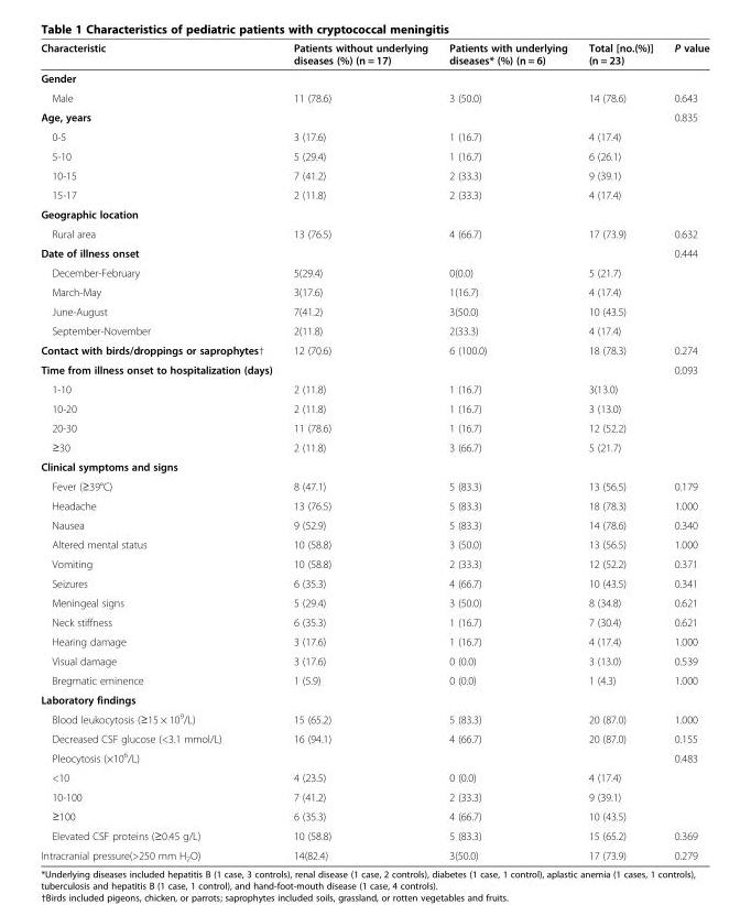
<table><thead><tr><td>Characteristic</td><td>Patients without underlying diseases (%) (n = 17)</td><td>Patients with underlying diseases* (%) (n = 6)</td><td>Total [no.(%)] (n = 23)</td><td>P value</td></tr></thead><tbody><tr><td colspan="5">Gender</td></tr><tr><td>Male</td><td>11 (78.6)</td><td>3 (50.0)</td><td>14 (78.6)</td><td>0.643</td></tr><tr><td>Age, years</td><td></td><td></td><td></td><td>0.835</td></tr><tr><td>0-5</td><td>3 (17.6)</td><td>1 (16.7)</td><td>4 (17.4)</td><td></td></tr><tr><td>5-10</td><td>5 (29.4)</td><td>1 (16.7)</td><td>6 (26.1)</td><td></td></tr><tr><td>10-15</td><td>7 (41.2)</td><td>2 (33.3)</td><td>9 (39.1)</td><td></td></tr><tr><td>15-17</td><td>2 (11.8)</td><td>2 (33.3)</td><td>4 (17.4)</td><td></td></tr><tr><td colspan="5">Geographic location</td></tr><tr><td>Rural area</td><td>13 (76.5)</td><td>4 (66.7)</td><td>17 (73.9)</td><td>0.632</td></tr><tr><td>Date of illness onset</td><td></td><td></td><td></td><td>0.444</td></tr><tr><td>December-February</td><td>5(29.4)</td><td>0(0.0)</td><td>5 (21.7)</td><td></td></tr><tr><td>March-May</td><td>3(17.6)</td><td>1(16.7)</td><td>4 (17.4)</td><td></td></tr><tr><td>June-August</td><td>7(41.2)</td><td>3(50.0)</td><td>10 (43.5)</td><td></td></tr><tr><td>September-November</td><td>2(11.8)</td><td>2(33.3)</td><td>4 (17.4)</td><td></td></tr><tr><td>Contact with birds/droppings or saprophytes†</td><td>12 (70.6)</td><td>6 (100.0)</td><td>18 (78.3)</td><td>0.274</td></tr><tr><td>Time from illness onset to hospitalization (days)</td><td></td><td></td><td></td><td>0.093</td></tr><tr><td>1-10</td><td>2 (11.8)</td><td>1 (16.7)</td><td>3(13.0)</td><td></td></tr><tr><td>10-20</td><td>2 (11.8)</td><td>1 (16.7)</td><td>3 (13.0)</td><td></td></tr><tr><td>20-30</td><td>11 (78.6)</td><td>1 (16.7)</td><td>12 (52.2)</td><td></td></tr><tr><td>≥30</td><td>2 (11.8)</td><td>3 (66.7)</td><td>5 (21.7)</td><td></td></tr><tr><td colspan="5">Clinical symptoms and signs</td></tr><tr><td>Fever (≥39°C)</td><td>8 (47.1)</td><td>5 (83.3)</td><td>13 (56.5)</td><td>0.179</td></tr><tr><td>Headache</td><td>13 (76.5)</td><td>5 (83.3)</td><td>18 (78.3)</td><td>1.000</td></tr><tr><td>Nausea</td><td>9 (52.9)</td><td>5 (83.3)</td><td>14 (78.6)</td><td>0.340</td></tr><tr><td>Altered mental status</td><td>10 (58.8)</td><td>3 (50.0)</td><td>13 (56.5)</td><td>1.000</td></tr><tr><td>Vomiting</td><td>10 (58.8)</td><td>2 (33.3)</td><td>12 (52.2)</td><td>0.371</td></tr><tr><td>Seizures</td><td>6 (35.3)</td><td>4 (66.7)</td><td>10 (43.5)</td><td>0.341</td></tr><tr><td>Meningeal signs</td><td>5 (29.4)</td><td>3 (50.0)</td><td>8 (34.8)</td><td>0.621</td></tr><tr><td>Neck stiffness</td><td>6 (35.3)</td><td>1 (16.7)</td><td>7 (30.4)</td><td>0.621</td></tr><tr><td>Hearing damage</td><td>3 (17.6)</td><td>1 (16.7)</td><td>4 (17.4)</td><td>1.000</td></tr><tr><td>Visual damage</td><td>3 (17.6)</td><td>0 (0.0)</td><td>3 (13.0)</td><td>0.539</td></tr><tr><td>Bregmatic eminence</td><td>1 (5.9)</td><td>0 (0.0)</td><td>1 (4.3)</td><td>1.000</td></tr><tr><td colspan="5">Laboratory findings</td></tr><tr><td>Blood leukocytosis (≥15 × 10<sup>9</sup>/L)</td><td>15 (65.2)</td><td>5 (83.3)</td><td>20 (87.0)</td><td>1.000</td></tr><tr><td>Decreased CSF glucose (&lt;3.1 mmol/L)</td><td>16 (94.1)</td><td>4 (66.7)</td><td>20 (87.0)</td><td>0.155</td></tr><tr><td>Pleocytosis (×10<sup>6</sup>/L)</td><td></td><td></td><td></td><td>0.483</td></tr><tr><td>&lt;10</td><td>4 (23.5)</td><td>0 (0.0)</td><td>4 (17.4)</td><td></td></tr><tr><td>10-100</td><td>7 (41.2)</td><td>2 (33.3)</td><td>9 (39.1)</td><td></td></tr><tr><td>≥100</td><td>6 (35.3)</td><td>4 (66.7)</td><td>10 (43.5)</td><td></td></tr><tr><td>Elevated CSF proteins (≥0.45 g/L)</td><td>10 (58.8)</td><td>5 (83.3)</td><td>15 (65.2)</td><td>0.369</td></tr><tr><td>Intracranial pressure(&gt;250 mm H<sub>2</sub>O)</td><td>14(82.4)</td><td>3(50.0)</td><td>17 (73.9)</td><td>0.279</td></tr></tbody></table>